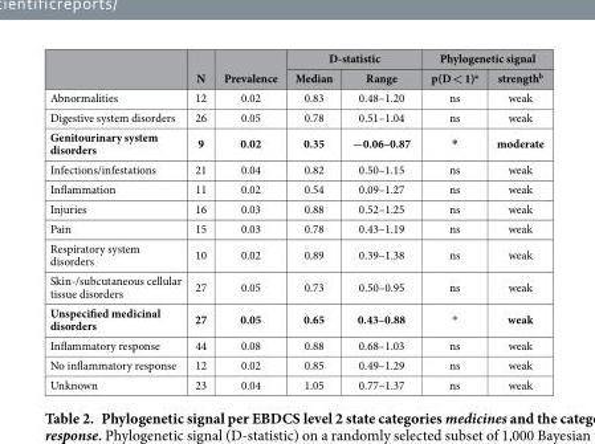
<table><thead><tr><td rowspan="2"></td><td rowspan="2">N</td><td rowspan="2">Prevalence</td><td colspan="2">D-statistic</td><td colspan="2">Phylogenetic signal</td></tr><tr><td>Median</td><td>Range</td><td>p(D &lt; 1)<sup>a</sup></td><td>strength<sup>b</sup></td></tr></thead><tbody><tr><td>Abnormalities</td><td>12</td><td>0.02</td><td>0.83</td><td>0.48–1.20</td><td>ns</td><td>weak</td></tr><tr><td>Digestive system disorders</td><td>26</td><td>0.05</td><td>0.78</td><td>0.51–1.04</td><td>ns</td><td>weak</td></tr><tr><td>Genitourinary system disorders</td><td>9</td><td>0.02</td><td>0.35</td><td>−0.06–0.87</td><td>*</td><td>moderate</td></tr><tr><td>Infections/infestations</td><td>21</td><td>0.04</td><td>0.82</td><td>0.50–1.15</td><td>ns</td><td>weak</td></tr><tr><td>Inflammation</td><td>11</td><td>0.02</td><td>0.54</td><td>0.09–1.27</td><td>ns</td><td>weak</td></tr><tr><td>Injuries</td><td>16</td><td>0.03</td><td>0.88</td><td>0.52–1.25</td><td>ns</td><td>weak</td></tr><tr><td>Pain</td><td>15</td><td>0.03</td><td>0.78</td><td>0.43–1.19</td><td>ns</td><td>weak</td></tr><tr><td>Respiratory system disorders</td><td>10</td><td>0.02</td><td>0.89</td><td>0.39–1.38</td><td>ns</td><td>weak</td></tr><tr><td>Skin-/subcutaneous cellular tissue disorders</td><td>27</td><td>0.05</td><td>0.73</td><td>0.50–0.95</td><td>ns</td><td>weak</td></tr><tr><td>Unspecified medicinal disorders</td><td>27</td><td>0.05</td><td>0.65</td><td>0.43–0.88</td><td>*</td><td>weak</td></tr><tr><td>Inflammatory response</td><td>44</td><td>0.08</td><td>0.88</td><td>0.68–1.03</td><td>ns</td><td>weak</td></tr><tr><td>No inflammatory response</td><td>12</td><td>0.02</td><td>0.85</td><td>0.49–1.29</td><td>ns</td><td>weak</td></tr><tr><td>Unknown</td><td>23</td><td>0.04</td><td>1.05</td><td>0.77–1.37</td><td>ns</td><td>weak</td></tr></tbody></table>